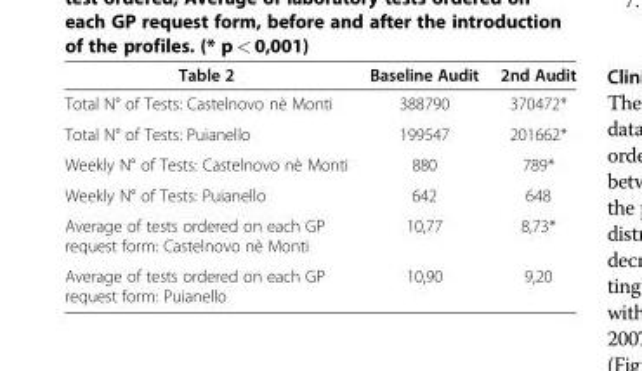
<table><thead><tr><td>Table 2</td><td>Baseline Audit</td><td>2nd Audit</td></tr></thead><tbody><tr><td>Total N° of Tests: Castelnovo nè Monti</td><td>388790</td><td>370472*</td></tr><tr><td>Total N° of Tests: Puianello</td><td>199547</td><td>201662*</td></tr><tr><td>Weekly N° of Tests: Castelnovo nè Monti</td><td>880</td><td>789*</td></tr><tr><td>Weekly N° of Tests: Puianello</td><td>642</td><td>648</td></tr><tr><td>Average of tests ordered on each GP request form: Castelnovo nè Monti</td><td>10,77</td><td>8,73*</td></tr><tr><td>Average of tests ordered on each GP request form: Puianello</td><td>10,90</td><td>9,20</td></tr></tbody></table>